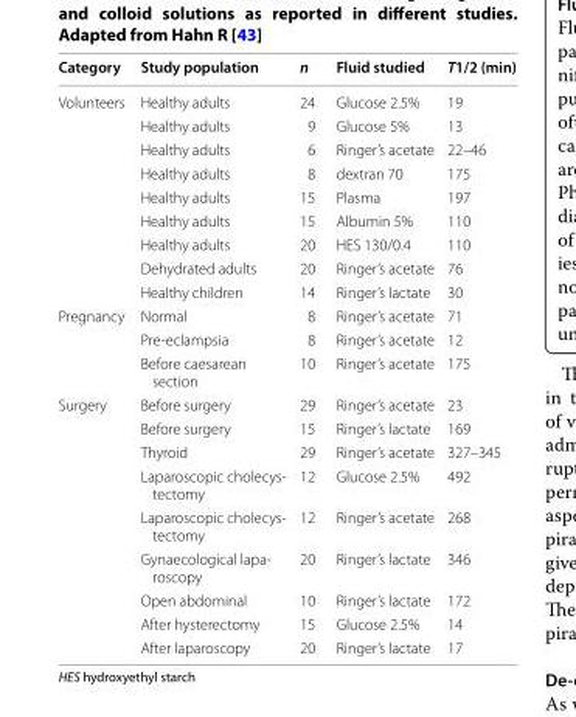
<table><thead><tr><td>Category</td><td>Study population</td><td>n</td><td>Fluid studied</td><td>T1/2 (min)</td></tr></thead><tbody><tr><td rowspan="9">Volunteers</td><td>Healthy adults</td><td>24</td><td>Glucose 2.5%</td><td>19</td></tr><tr><td>Healthy adults</td><td>9</td><td>Glucose 5%</td><td>13</td></tr><tr><td>Healthy adults</td><td>6</td><td>Ringer’s acetate</td><td>22–46</td></tr><tr><td>Healthy adults</td><td>8</td><td>dextran 70</td><td>175</td></tr><tr><td>Healthy adults</td><td>15</td><td>Plasma</td><td>197</td></tr><tr><td>Healthy adults</td><td>15</td><td>Albumin 5%</td><td>110</td></tr><tr><td>Healthy adults</td><td>20</td><td>HES 130/0.4</td><td>110</td></tr><tr><td>Dehydrated adults</td><td>20</td><td>Ringer’s acetate</td><td>76</td></tr><tr><td>Healthy children</td><td>14</td><td>Ringer’s lactate</td><td>30</td></tr><tr><td rowspan="3">Pregnancy</td><td>Normal</td><td>8</td><td>Ringer’s acetate</td><td>71</td></tr><tr><td>Pre‑eclampsia</td><td>8</td><td>Ringer’s acetate</td><td>12</td></tr><tr><td>Before caesarean section</td><td>10</td><td>Ringer’s acetate</td><td>175</td></tr><tr><td rowspan="9">Surgery</td><td>Before surgery</td><td>29</td><td>Ringer’s acetate</td><td>23</td></tr><tr><td>Before surgery</td><td>15</td><td>Ringer’s lactate</td><td>169</td></tr><tr><td>Thyroid</td><td>29</td><td>Ringer’s acetate</td><td>327–345</td></tr><tr><td>Laparoscopic cholecys‑ tectomy</td><td>12</td><td>Glucose 2.5%</td><td>492</td></tr><tr><td>Laparoscopic cholecys‑ tectomy</td><td>12</td><td>Ringer’s acetate</td><td>268</td></tr><tr><td>Gynaecological lapa‑ roscopy</td><td>20</td><td>Ringer’s lactate</td><td>346</td></tr><tr><td>Open abdominal</td><td>10</td><td>Ringer’s lactate</td><td>172</td></tr><tr><td>After hysterectomy</td><td>15</td><td>Glucose 2.5%</td><td>14</td></tr><tr><td>After laparoscopy</td><td>20</td><td>Ringer’s lactate</td><td>17</td></tr></tbody></table>